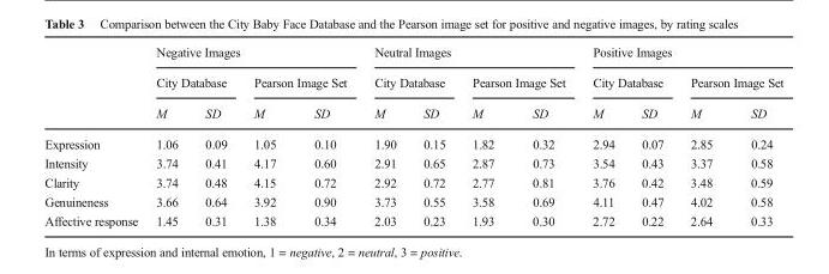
<table><thead><tr><td rowspan="3"></td><td colspan="4">Negative Images</td><td colspan="4">Neutral Images</td><td colspan="4">Positive Images</td></tr><tr><td colspan="2">City Database</td><td colspan="2">Pearson Image Set</td><td colspan="2">City Database</td><td colspan="2">Pearson Image Set</td><td colspan="2">City Database</td><td colspan="2">Pearson Image Set</td></tr><tr><td>M</td><td>SD</td><td>M</td><td>SD</td><td>M</td><td>SD</td><td>M</td><td>SD</td><td>M</td><td>SD</td><td>M</td><td>SD</td></tr></thead><tbody><tr><td>Expression</td><td>1.06</td><td>0.09</td><td>1.05</td><td>0.10</td><td>1.90</td><td>0.15</td><td>1.82</td><td>0.32</td><td>2.94</td><td>0.07</td><td>2.85</td><td>0.24</td></tr><tr><td>Intensity</td><td>3.74</td><td>0.41</td><td>4.17</td><td>0.60</td><td>2.91</td><td>0.65</td><td>2.87</td><td>0.73</td><td>3.54</td><td>0.43</td><td>3.37</td><td>0.58</td></tr><tr><td>Clarity</td><td>3.74</td><td>0.48</td><td>4.15</td><td>0.72</td><td>2.92</td><td>0.72</td><td>2.77</td><td>0.81</td><td>3.76</td><td>0.42</td><td>3.48</td><td>0.59</td></tr><tr><td>Genuineness</td><td>3.66</td><td>0.64</td><td>3.92</td><td>0.90</td><td>3.73</td><td>0.55</td><td>3.58</td><td>0.69</td><td>4.11</td><td>0.47</td><td>4.02</td><td>0.58</td></tr><tr><td>Affective response</td><td>1.45</td><td>0.31</td><td>1.38</td><td>0.34</td><td>2.03</td><td>0.23</td><td>1.93</td><td>0.30</td><td>2.72</td><td>0.22</td><td>2.64</td><td>0.33</td></tr></tbody></table>